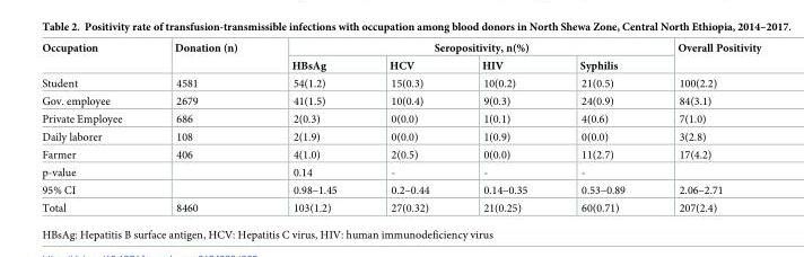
<table><thead><tr><td rowspan="2">Occupation</td><td rowspan="2">Donation (n)</td><td colspan="4">Seropositivity, n(%)</td><td rowspan="2">Overall Positivity</td></tr><tr><td>HBsAg</td><td>HCV</td><td>HIV</td><td>Syphilis</td></tr></thead><tbody><tr><td>Student</td><td>4581</td><td>54(1.2)</td><td>15(0.3)</td><td>10(0.2)</td><td>21(0.5)</td><td>100(2.2)</td></tr><tr><td>Gov. employee</td><td>2679</td><td>41(1.5)</td><td>10(0.4)</td><td>9(0.3)</td><td>24(0.9)</td><td>84(3.1)</td></tr><tr><td>Private Employee</td><td>686</td><td>2(0.3)</td><td>0(0.0)</td><td>1(0.1)</td><td>4(0.6)</td><td>7(1.0)</td></tr><tr><td>Daily laborer</td><td>108</td><td>2(1.9)</td><td>0(0.0)</td><td>1(0.9)</td><td>0(0.0)</td><td>3(2.8)</td></tr><tr><td>Farmer</td><td>406</td><td>4(1.0)</td><td>2(0.5)</td><td>0(0.0)</td><td>11(2.7)</td><td>17(4.2)</td></tr><tr><td>p-value</td><td></td><td>0.14</td><td>-</td><td>-</td><td>-</td><td></td></tr><tr><td>95% CI</td><td></td><td>0.98–1.45</td><td>0.2–0.44</td><td>0.14–0.35</td><td>0.53–0.89</td><td>2.06–2.71</td></tr><tr><td>Total</td><td>8460</td><td>103(1.2)</td><td>27(0.32)</td><td>21(0.25)</td><td>60(0.71)</td><td>207(2.4)</td></tr></tbody></table>